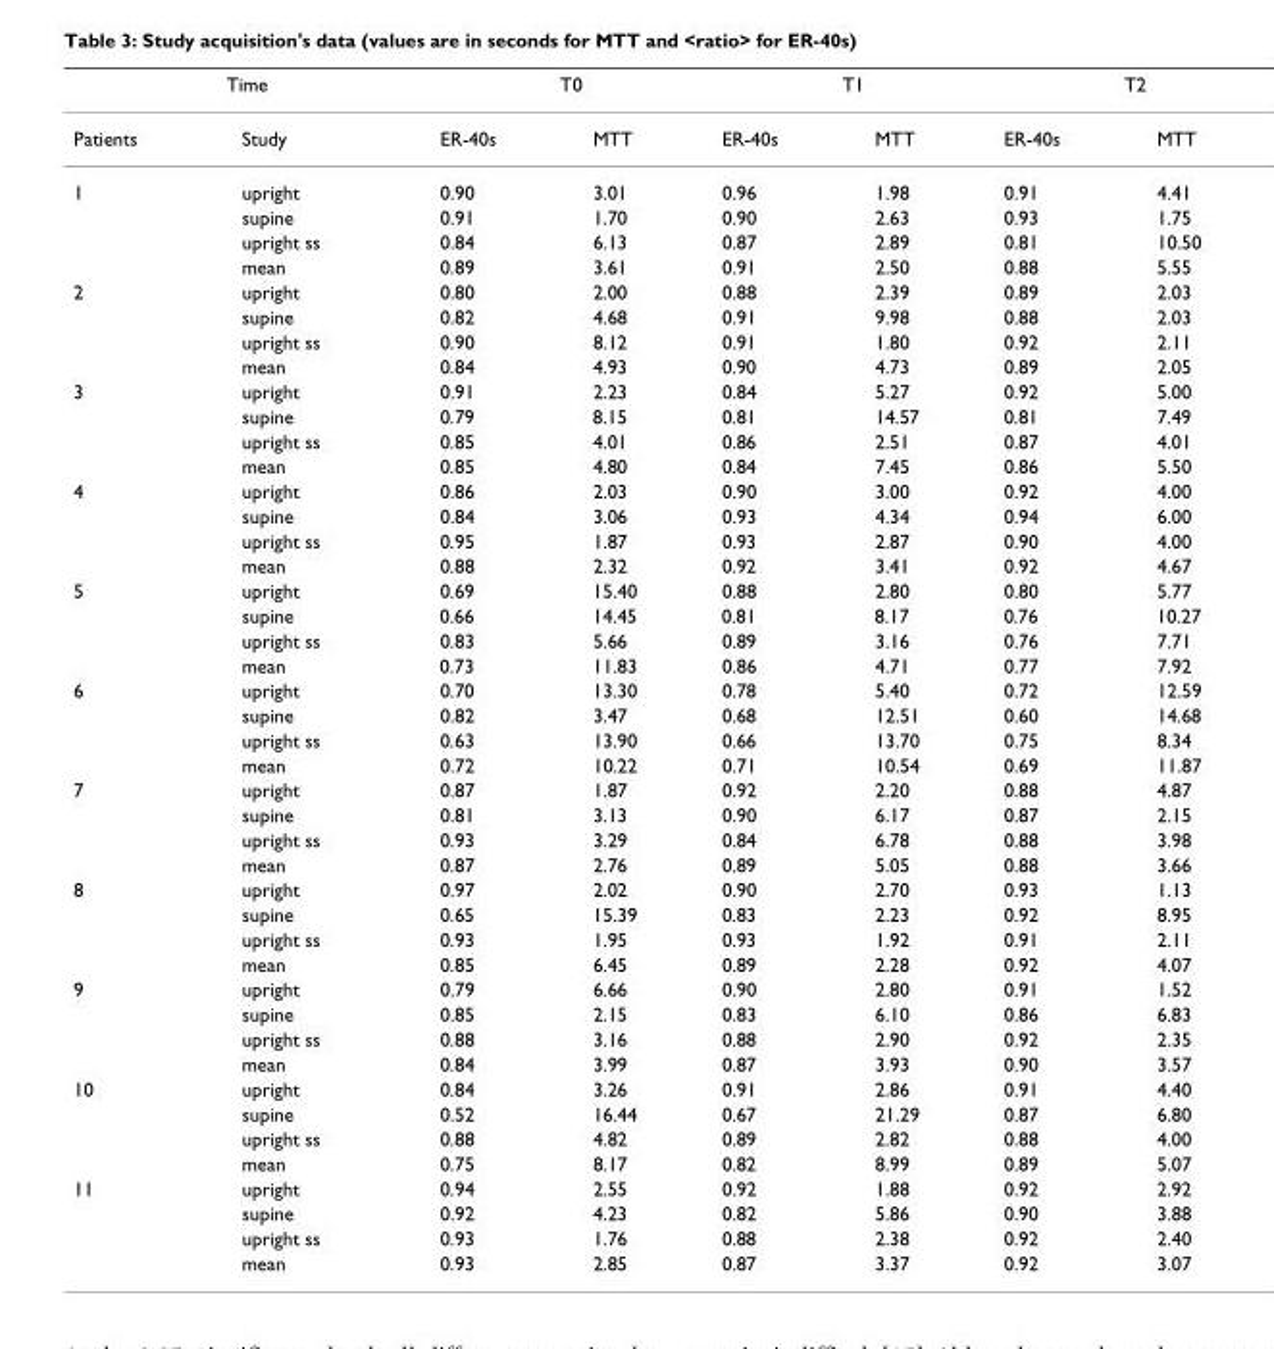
<table><thead><tr><td colspan="2">Time</td><td colspan="2">T0</td><td colspan="2">T1</td><td colspan="2">T2</td></tr><tr><td>Patients</td><td>Study</td><td>ER-40s</td><td>MTT</td><td>ER-40s</td><td>MTT</td><td>ER-40s</td><td>MTT</td></tr></thead><tbody><tr><td rowspan="4">1</td><td>upright</td><td>0.90</td><td>3.01</td><td>0.96</td><td>1.98</td><td>0.91</td><td>4.41</td></tr><tr><td>supine</td><td>0.91</td><td>1.70</td><td>0.90</td><td>2.63</td><td>0.93</td><td>1.75</td></tr><tr><td>upright ss</td><td>0.84</td><td>6.13</td><td>0.87</td><td>2.89</td><td>0.81</td><td>10.50</td></tr><tr><td>mean</td><td>0.89</td><td>3.61</td><td>0.91</td><td>2.50</td><td>0.88</td><td>5.55</td></tr><tr><td rowspan="4">2</td><td>upright</td><td>0.80</td><td>2.00</td><td>0.88</td><td>2.39</td><td>0.89</td><td>2.03</td></tr><tr><td>supine</td><td>0.82</td><td>4.68</td><td>0.91</td><td>9.98</td><td>0.88</td><td>2.03</td></tr><tr><td>upright ss</td><td>0.90</td><td>8.12</td><td>0.91</td><td>1.80</td><td>0.92</td><td>2.11</td></tr><tr><td>mean</td><td>0.84</td><td>4.93</td><td>0.90</td><td>4.73</td><td>0.89</td><td>2.05</td></tr><tr><td rowspan="4">3</td><td>upright</td><td>0.91</td><td>2.23</td><td>0.84</td><td>5.27</td><td>0.92</td><td>5.00</td></tr><tr><td>supine</td><td>0.79</td><td>8.15</td><td>0.81</td><td>14.57</td><td>0.81</td><td>7.49</td></tr><tr><td>upright ss</td><td>0.85</td><td>4.01</td><td>0.86</td><td>2.51</td><td>0.87</td><td>4.01</td></tr><tr><td>mean</td><td>0.85</td><td>4.80</td><td>0.84</td><td>7.45</td><td>0.86</td><td>5.50</td></tr><tr><td rowspan="4">4</td><td>upright</td><td>0.86</td><td>2.03</td><td>0.90</td><td>3.00</td><td>0.92</td><td>4.00</td></tr><tr><td>supine</td><td>0.84</td><td>3.06</td><td>0.93</td><td>4.34</td><td>0.94</td><td>6.00</td></tr><tr><td>upright ss</td><td>0.95</td><td>1.87</td><td>0.93</td><td>2.87</td><td>0.90</td><td>4.00</td></tr><tr><td>mean</td><td>0.88</td><td>2.32</td><td>0.92</td><td>3.41</td><td>0.92</td><td>4.67</td></tr><tr><td rowspan="4">5</td><td>upright</td><td>0.69</td><td>15.40</td><td>0.88</td><td>2.80</td><td>0.80</td><td>5.77</td></tr><tr><td>supine</td><td>0.66</td><td>14.45</td><td>0.81</td><td>8.17</td><td>0.76</td><td>10.27</td></tr><tr><td>upright ss</td><td>0.83</td><td>5.66</td><td>0.89</td><td>3.16</td><td>0.76</td><td>7.71</td></tr><tr><td>mean</td><td>0.73</td><td>11.83</td><td>0.86</td><td>4.71</td><td>0.77</td><td>7.92</td></tr><tr><td rowspan="4">6</td><td>upright</td><td>0.70</td><td>13.30</td><td>0.78</td><td>5.40</td><td>0.72</td><td>12.59</td></tr><tr><td>supine</td><td>0.82</td><td>3.47</td><td>0.68</td><td>12.51</td><td>0.60</td><td>14.68</td></tr><tr><td>upright ss</td><td>0.63</td><td>13.90</td><td>0.66</td><td>13.70</td><td>0.75</td><td>8.34</td></tr><tr><td>mean</td><td>0.72</td><td>10.22</td><td>0.71</td><td>10.54</td><td>0.69</td><td>11.87</td></tr><tr><td rowspan="4">7</td><td>upright</td><td>0.87</td><td>1.87</td><td>0.92</td><td>2.20</td><td>0.88</td><td>4.87</td></tr><tr><td>supine</td><td>0.81</td><td>3.13</td><td>0.90</td><td>6.17</td><td>0.87</td><td>2.15</td></tr><tr><td>upright ss</td><td>0.93</td><td>3.29</td><td>0.84</td><td>6.78</td><td>0.88</td><td>3.98</td></tr><tr><td>mean</td><td>0.87</td><td>2.76</td><td>0.89</td><td>5.05</td><td>0.88</td><td>3.66</td></tr><tr><td rowspan="4">8</td><td>upright</td><td>0.97</td><td>2.02</td><td>0.90</td><td>2.70</td><td>0.93</td><td>1.13</td></tr><tr><td>supine</td><td>0.65</td><td>15.39</td><td>0.83</td><td>2.23</td><td>0.92</td><td>8.95</td></tr><tr><td>upright ss</td><td>0.93</td><td>1.95</td><td>0.93</td><td>1.92</td><td>0.91</td><td>2.11</td></tr><tr><td>mean</td><td>0.85</td><td>6.45</td><td>0.89</td><td>2.28</td><td>0.92</td><td>4.07</td></tr><tr><td rowspan="4">9</td><td>upright</td><td>0.79</td><td>6.66</td><td>0.90</td><td>2.80</td><td>0.91</td><td>1.52</td></tr><tr><td>supine</td><td>0.85</td><td>2.15</td><td>0.83</td><td>6.10</td><td>0.86</td><td>6.83</td></tr><tr><td>upright ss</td><td>0.88</td><td>3.16</td><td>0.88</td><td>2.90</td><td>0.92</td><td>2.35</td></tr><tr><td>mean</td><td>0.84</td><td>3.99</td><td>0.87</td><td>3.93</td><td>0.90</td><td>3.57</td></tr><tr><td rowspan="4">10</td><td>upright</td><td>0.84</td><td>3.26</td><td>0.91</td><td>2.86</td><td>0.91</td><td>4.40</td></tr><tr><td>supine</td><td>0.52</td><td>16.44</td><td>0.67</td><td>21.29</td><td>0.87</td><td>6.80</td></tr><tr><td>upright ss</td><td>0.88</td><td>4.82</td><td>0.89</td><td>2.82</td><td>0.88</td><td>4.00</td></tr><tr><td>mean</td><td>0.75</td><td>8.17</td><td>0.82</td><td>8.99</td><td>0.89</td><td>5.07</td></tr><tr><td rowspan="4">11</td><td>upright</td><td>0.94</td><td>2.55</td><td>0.92</td><td>1.88</td><td>0.92</td><td>2.92</td></tr><tr><td>supine</td><td>0.92</td><td>4.23</td><td>0.82</td><td>5.86</td><td>0.90</td><td>3.88</td></tr><tr><td>upright ss</td><td>0.93</td><td>1.76</td><td>0.88</td><td>2.38</td><td>0.92</td><td>2.40</td></tr><tr><td>mean</td><td>0.93</td><td>2.85</td><td>0.87</td><td>3.37</td><td>0.92</td><td>3.07</td></tr></tbody></table>